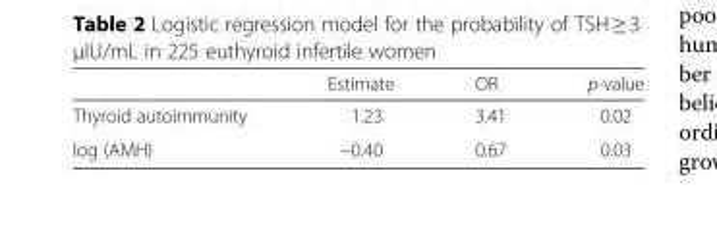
<table><thead><tr><td></td><td>Estimate</td><td>OR</td><td>p-value</td></tr></thead><tbody><tr><td>Thyroid autoimmunity</td><td>1.23</td><td>3.41</td><td>0.02</td></tr><tr><td>log (AMH)</td><td>−0.40</td><td>0.67</td><td>0.03</td></tr></tbody></table>